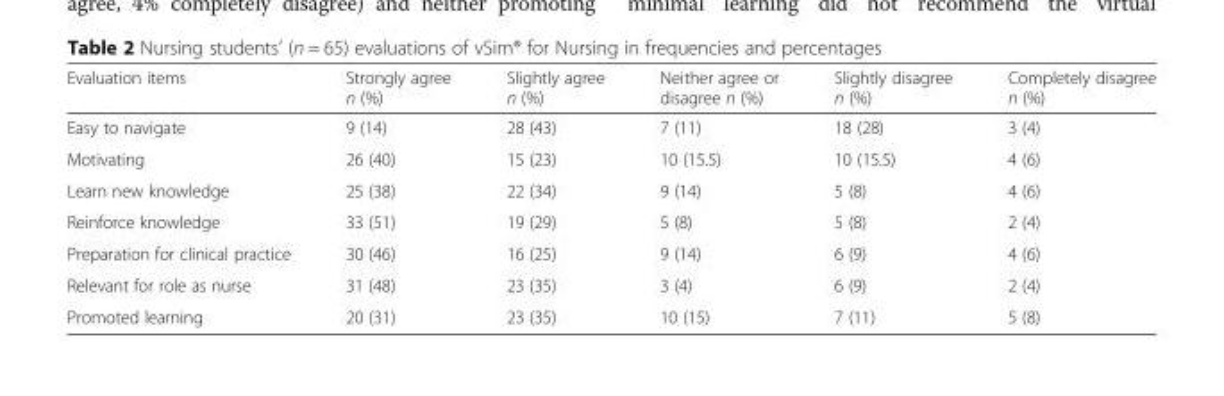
<table><thead><tr><td>Evaluation items</td><td>Strongly agree n (%)</td><td>Slightly agree n (%)</td><td>Neither agree or disagree n (%)</td><td>Slightly disagree n (%)</td><td>Completely disagree n (%)</td></tr></thead><tbody><tr><td>Easy to navigate</td><td>9 (14)</td><td>28 (43)</td><td>7 (11)</td><td>18 (28)</td><td>3 (4)</td></tr><tr><td>Motivating</td><td>26 (40)</td><td>15 (23)</td><td>10 (15.5)</td><td>10 (15.5)</td><td>4 (6)</td></tr><tr><td>Learn new knowledge</td><td>25 (38)</td><td>22 (34)</td><td>9 (14)</td><td>5 (8)</td><td>4 (6)</td></tr><tr><td>Reinforce knowledge</td><td>33 (51)</td><td>19 (29)</td><td>5 (8)</td><td>5 (8)</td><td>2 (4)</td></tr><tr><td>Preparation for clinical practice</td><td>30 (46)</td><td>16 (25)</td><td>9 (14)</td><td>6 (9)</td><td>4 (6)</td></tr><tr><td>Relevant for role as nurse</td><td>31 (48)</td><td>23 (35)</td><td>3 (4)</td><td>6 (9)</td><td>2 (4)</td></tr><tr><td>Promoted learning</td><td>20 (31)</td><td>23 (35)</td><td>10 (15)</td><td>7 (11)</td><td>5 (8)</td></tr></tbody></table>